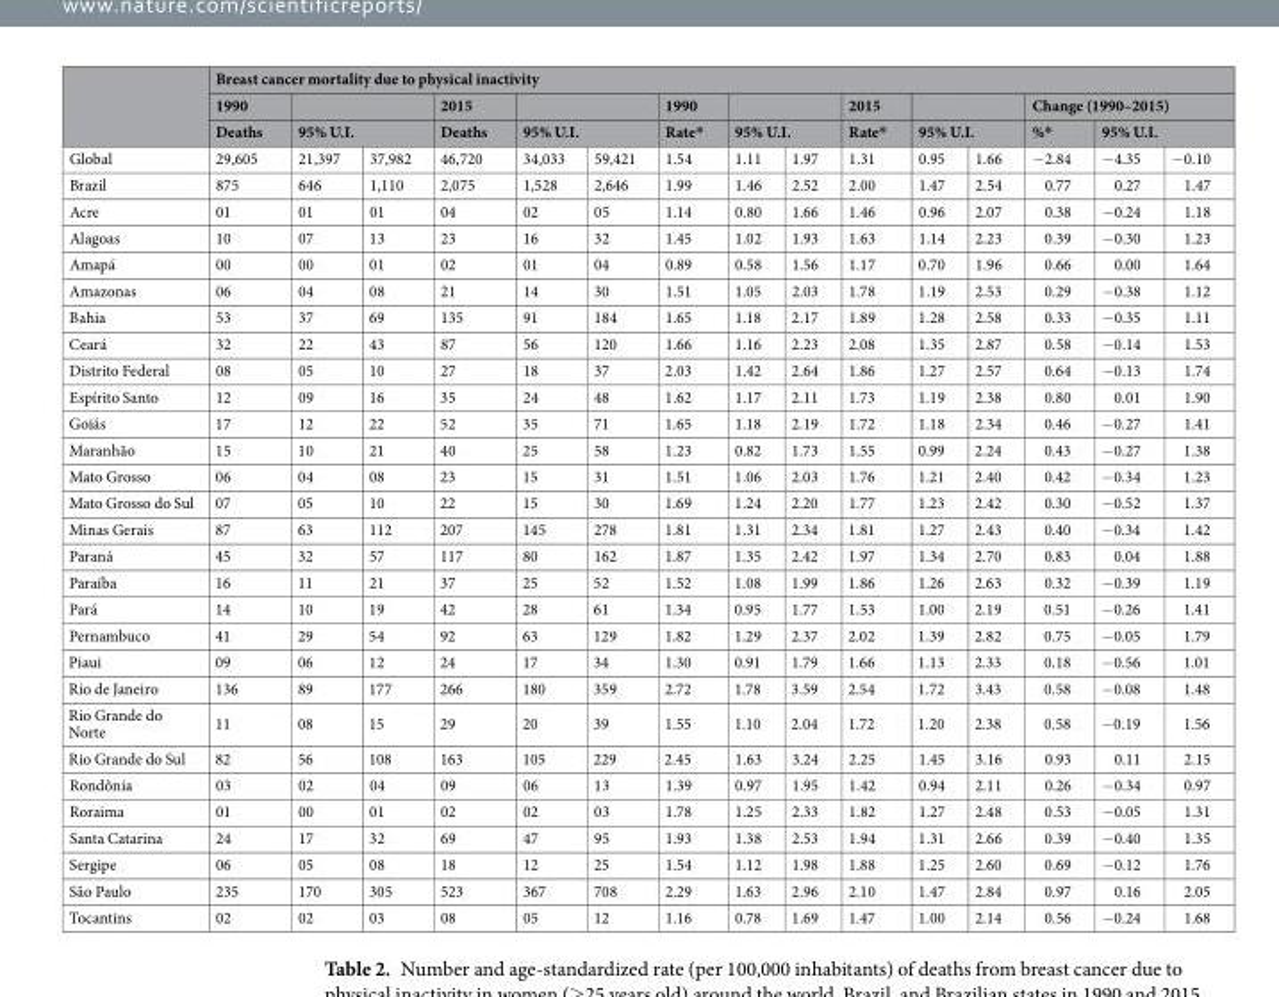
<table><thead><tr><td rowspan="4">Global</td><td colspan="15">Breast cancer mortality due to physical inactivity</td></tr><tr><td rowspan="3">1990 Deaths 29,605</td><td></td><td></td><td rowspan="3">2015 Deaths 46,720</td><td></td><td></td><td rowspan="3">1990 Rate* 1.54</td><td></td><td></td><td rowspan="3">2015 Rate* 1.31</td><td></td><td></td><td colspan="3">Change (1990–2015)</td></tr><tr><td colspan="2">95% U.I.</td><td colspan="2">95% U.I.</td><td colspan="2">95% U.I.</td><td colspan="2">95% U.I.</td><td rowspan="2">%* −2.84</td><td colspan="2">95% U.I.</td></tr><tr><td>21,397</td><td>37,982</td><td>34,033</td><td>59,421</td><td>1.11</td><td>1.97</td><td>0.95</td><td>1.66</td><td>−4.35</td><td>−0.10</td></tr></thead><tbody><tr><td>Brazil</td><td>875</td><td>646</td><td>1,110</td><td>2,075</td><td>1,528</td><td>2,646</td><td>1.99</td><td>1.46</td><td>2.52</td><td>2.00</td><td>1.47</td><td>2.54</td><td>0.77</td><td>0.27</td><td>1.47</td></tr><tr><td>Acre</td><td>01</td><td>01</td><td>01</td><td>04</td><td>02</td><td>05</td><td>1.14</td><td>0.80</td><td>1.66</td><td>1.46</td><td>0.96</td><td>2.07</td><td>0.38</td><td>−0.24</td><td>1.18</td></tr><tr><td>Alagoas</td><td>10</td><td>07</td><td>13</td><td>23</td><td>16</td><td>32</td><td>1.45</td><td>1.02</td><td>1.93</td><td>1.63</td><td>1.14</td><td>2.23</td><td>0.39</td><td>−0.30</td><td>1.23</td></tr><tr><td>Amapá</td><td>00</td><td>00</td><td>01</td><td>02</td><td>01</td><td>04</td><td>0.89</td><td>0.58</td><td>1.56</td><td>1.17</td><td>0.70</td><td>1.96</td><td>0.66</td><td>0.00</td><td>1.64</td></tr><tr><td>Amazonas</td><td>06</td><td>04</td><td>08</td><td>21</td><td>14</td><td>30</td><td>1.51</td><td>1.05</td><td>2.03</td><td>1.78</td><td>1.19</td><td>2.53</td><td>0.29</td><td>−0.38</td><td>1.12</td></tr><tr><td>Bahia</td><td>53</td><td>37</td><td>69</td><td>135</td><td>91</td><td>184</td><td>1.65</td><td>1.18</td><td>2.17</td><td>1.89</td><td>1.28</td><td>2.58</td><td>0.33</td><td>−0.35</td><td>1.11</td></tr><tr><td>Ceará</td><td>32</td><td>22</td><td>43</td><td>87</td><td>56</td><td>120</td><td>1.66</td><td>1.16</td><td>2.23</td><td>2.08</td><td>1.35</td><td>2.87</td><td>0.58</td><td>−0.14</td><td>1.53</td></tr><tr><td>Distrito Federal</td><td>08</td><td>05</td><td>10</td><td>27</td><td>18</td><td>37</td><td>2.03</td><td>1.42</td><td>2.64</td><td>1.86</td><td>1.27</td><td>2.57</td><td>0.64</td><td>−0.13</td><td>1.74</td></tr><tr><td>Espírito Santo</td><td>12</td><td>09</td><td>16</td><td>35</td><td>24</td><td>48</td><td>1.62</td><td>1.17</td><td>2.11</td><td>1.73</td><td>1.19</td><td>2.38</td><td>0.80</td><td>0.01</td><td>1.90</td></tr><tr><td>Goiás</td><td>17</td><td>12</td><td>22</td><td>52</td><td>35</td><td>71</td><td>1.65</td><td>1.18</td><td>2.19</td><td>1.72</td><td>1.18</td><td>2.34</td><td>0.46</td><td>−0.27</td><td>1.41</td></tr><tr><td>Maranhão</td><td>15</td><td>10</td><td>21</td><td>40</td><td>25</td><td>58</td><td>1.23</td><td>0.82</td><td>1.73</td><td>1.55</td><td>0.99</td><td>2.24</td><td>0.43</td><td>−0.27</td><td>1.38</td></tr><tr><td>Mato Grosso</td><td>06</td><td>04</td><td>08</td><td>23</td><td>15</td><td>31</td><td>1.51</td><td>1.06</td><td>2.03</td><td>1.76</td><td>1.21</td><td>2.40</td><td>0.42</td><td>−0.34</td><td>1.23</td></tr><tr><td>Mato Grosso do Sul</td><td>07</td><td>05</td><td>10</td><td>22</td><td>15</td><td>30</td><td>1.69</td><td>1.24</td><td>2.20</td><td>1.77</td><td>1.23</td><td>2.42</td><td>0.30</td><td>−0.52</td><td>1.37</td></tr><tr><td>Minas Gerais</td><td>87</td><td>63</td><td>112</td><td>207</td><td>145</td><td>278</td><td>1.81</td><td>1.31</td><td>2.34</td><td>1.81</td><td>1.27</td><td>2.43</td><td>0.40</td><td>−0.34</td><td>1.42</td></tr><tr><td>Paraná</td><td>45</td><td>32</td><td>57</td><td>117</td><td>80</td><td>162</td><td>1.87</td><td>1.35</td><td>2.42</td><td>1.97</td><td>1.34</td><td>2.70</td><td>0.83</td><td>0.04</td><td>1.88</td></tr><tr><td>Paraíba</td><td>16</td><td>11</td><td>21</td><td>37</td><td>25</td><td>52</td><td>1.52</td><td>1.08</td><td>1.99</td><td>1.86</td><td>1.26</td><td>2.63</td><td>0.32</td><td>−0.39</td><td>1.19</td></tr><tr><td>Pará</td><td>14</td><td>10</td><td>19</td><td>42</td><td>28</td><td>61</td><td>1.34</td><td>0.95</td><td>1.77</td><td>1.53</td><td>1.00</td><td>2.19</td><td>0.51</td><td>−0.26</td><td>1.41</td></tr><tr><td>Pernambuco</td><td>41</td><td>29</td><td>54</td><td>92</td><td>63</td><td>129</td><td>1.82</td><td>1.29</td><td>2.37</td><td>2.02</td><td>1.39</td><td>2.82</td><td>0.75</td><td>−0.05</td><td>1.79</td></tr><tr><td>Piaui</td><td>09</td><td>06</td><td>12</td><td>24</td><td>17</td><td>34</td><td>1.30</td><td>0.91</td><td>1.79</td><td>1.66</td><td>1.13</td><td>2.33</td><td>0.18</td><td>−0.56</td><td>1.01</td></tr><tr><td>Rio de Janeiro</td><td>136</td><td>89</td><td>177</td><td>266</td><td>180</td><td>359</td><td>2.72</td><td>1.78</td><td>3.59</td><td>2.54</td><td>1.72</td><td>3.43</td><td>0.58</td><td>−0.08</td><td>1.48</td></tr><tr><td>Rio Grande do Norte</td><td>11</td><td>08</td><td>15</td><td>29</td><td>20</td><td>39</td><td>1.55</td><td>1.10</td><td>2.04</td><td>1.72</td><td>1.20</td><td>2.38</td><td>0.58</td><td>−0.19</td><td>1.56</td></tr><tr><td>Rio Grande do Sul</td><td>82</td><td>56</td><td>108</td><td>163</td><td>105</td><td>229</td><td>2.45</td><td>1.63</td><td>3.24</td><td>2.25</td><td>1.45</td><td>3.16</td><td>0.93</td><td>0.11</td><td>2.15</td></tr><tr><td>Rondônia</td><td>03</td><td>02</td><td>04</td><td>09</td><td>06</td><td>13</td><td>1.39</td><td>0.97</td><td>1.95</td><td>1.42</td><td>0.94</td><td>2.11</td><td>0.26</td><td>−0.34</td><td>0.97</td></tr><tr><td>Roraima</td><td>01</td><td>00</td><td>01</td><td>02</td><td>02</td><td>03</td><td>1.78</td><td>1.25</td><td>2.33</td><td>1.82</td><td>1.27</td><td>2.48</td><td>0.53</td><td>−0.05</td><td>1.31</td></tr><tr><td>Santa Catarina</td><td>24</td><td>17</td><td>32</td><td>69</td><td>47</td><td>95</td><td>1.93</td><td>1.38</td><td>2.53</td><td>1.94</td><td>1.31</td><td>2.66</td><td>0.39</td><td>−0.40</td><td>1.35</td></tr><tr><td>Sergipe</td><td>06</td><td>05</td><td>08</td><td>18</td><td>12</td><td>25</td><td>1.54</td><td>1.12</td><td>1.98</td><td>1.88</td><td>1.25</td><td>2.60</td><td>0.69</td><td>−0.12</td><td>1.76</td></tr><tr><td>São Paulo</td><td>235</td><td>170</td><td>305</td><td>523</td><td>367</td><td>708</td><td>2.29</td><td>1.63</td><td>2.96</td><td>2.10</td><td>1.47</td><td>2.84</td><td>0.97</td><td>0.16</td><td>2.05</td></tr><tr><td>Tocantins</td><td>02</td><td>02</td><td>03</td><td>08</td><td>05</td><td>12</td><td>1.16</td><td>0.78</td><td>1.69</td><td>1.47</td><td>1.00</td><td>2.14</td><td>0.56</td><td>−0.24</td><td>1.68</td></tr></tbody></table>